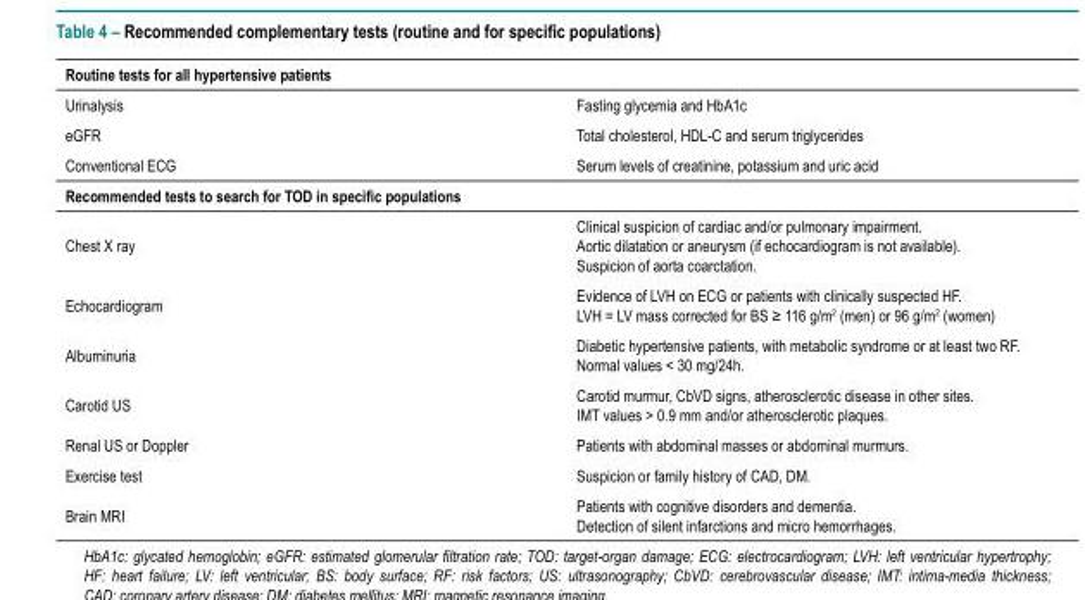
<table><thead><tr><td colspan="2">Routine tests for all hypertensive patients</td></tr><tr><td>Urinalysis</td><td>Fasting glycemia and HbA1c</td></tr></thead><tbody><tr><td>eGFR</td><td>Total cholesterol, HDL-C and serum triglycerides</td></tr><tr><td>Conventional ECG</td><td>Serum levels of creatinine, potassium and uric acid</td></tr><tr><td colspan="2">Recommended tests to search for TOD in specific populations</td></tr><tr><td>Chest X ray</td><td>Clinical suspicion of cardiac and/or pulmonary impairment. Aortic dilatation or aneurysm (if echocardiogram is not available). Suspicion of aorta coarctation.</td></tr><tr><td>Echocardiogram</td><td>Evidence of LVH on ECG or patients with clinically suspected HF. LVH = LV mass corrected for BS ≥ 116 g/m<sup>2</sup> (men) or 96 g/m<sup>2</sup> (women)</td></tr><tr><td>Albuminuria</td><td>Diabetic hypertensive patients, with metabolic syndrome or at least two RF. Normal values &lt; 30 mg/24h.</td></tr><tr><td>Carotid US</td><td>Carotid murmur, CbVD signs, atherosclerotic disease in other sites. IMT values &gt; 0.9 mm and/or atherosclerotic plaques.</td></tr><tr><td>Renal US or Doppler</td><td>Patients with abdominal masses or abdominal murmurs.</td></tr><tr><td>Exercise test</td><td>Suspicion or family history of CAD, DM.</td></tr><tr><td>Brain MRI</td><td>Patients with cognitive disorders and dementia. Detection of silent infarctions and micro hemorrhages.</td></tr></tbody></table>